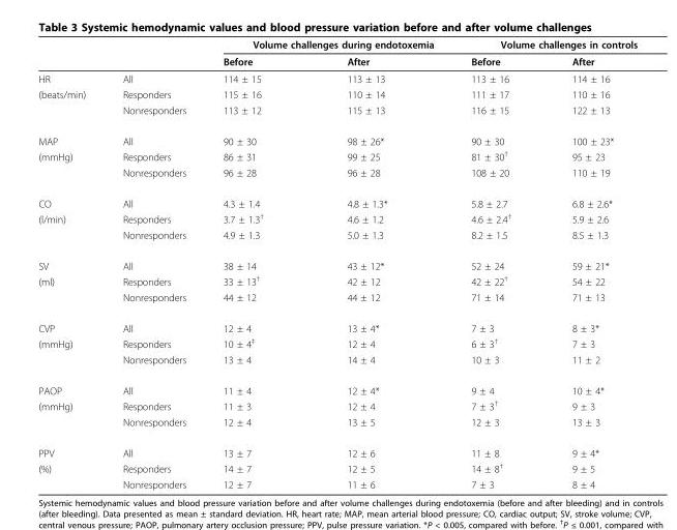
<table><thead><tr><td rowspan="2"></td><td rowspan="2"></td><td colspan="2">Volume challenges during endotoxemia</td><td colspan="2">Volume challenges in controls</td></tr><tr><td>Before</td><td>After</td><td>Before</td><td>After</td></tr></thead><tbody><tr><td>HR</td><td>All</td><td>114 ± 15</td><td>113 ± 13</td><td>113 ± 16</td><td>114 ± 16</td></tr><tr><td rowspan="2">(beats/min)</td><td>Responders</td><td>115 ± 16</td><td>110 ± 14</td><td>111 ± 17</td><td>110 ± 16</td></tr><tr><td>Nonresponders</td><td>113 ± 12</td><td>115 ± 13</td><td>116 ± 15</td><td>122 ± 13</td></tr><tr><td>MAP</td><td>All</td><td>90 ± 30</td><td>98 ± 26*</td><td>90 ± 30</td><td>100 ± 23*</td></tr><tr><td rowspan="2">(mmHg)</td><td>Responders</td><td>86 ± 31</td><td>99 ± 25</td><td>81 ± 30<sup>†</sup></td><td>95 ± 23</td></tr><tr><td>Nonresponders</td><td>96 ± 28</td><td>96 ± 28</td><td>108 ± 20</td><td>110 ± 19</td></tr><tr><td>CO</td><td>All</td><td>4.3 ± 1.4</td><td>4.8 ± 1.3*</td><td>5.8 ± 2.7</td><td>6.8 ± 2.6*</td></tr><tr><td rowspan="2">(l/min)</td><td>Responders</td><td>3.7 ± 1.3<sup>†</sup></td><td>4.6 ± 1.2</td><td>4.6 ± 2.4<sup>†</sup></td><td>5.9 ± 2.6</td></tr><tr><td>Nonresponders</td><td>4.9 ± 1.3</td><td>5.0 ± 1.3</td><td>8.2 ± 1.5</td><td>8.5 ± 1.3</td></tr><tr><td>SV</td><td>All</td><td>38 ± 14</td><td>43 ± 12*</td><td>52 ± 24</td><td>59 ± 21*</td></tr><tr><td rowspan="2">(ml)</td><td>Responders</td><td>33 ± 13<sup>†</sup></td><td>42 ± 12</td><td>42 ± 22<sup>†</sup></td><td>54 ± 22</td></tr><tr><td>Nonresponders</td><td>44 ± 12</td><td>44 ± 12</td><td>71 ± 14</td><td>71 ± 13</td></tr><tr><td>CVP</td><td>All</td><td>12 ± 4</td><td>13 ± 4*</td><td>7 ± 3</td><td>8 ± 3*</td></tr><tr><td rowspan="2">(mmHg)</td><td>Responders</td><td>10 ± 4<sup>‡</sup></td><td>12 ± 4</td><td>6 ± 3<sup>†</sup></td><td>7 ± 3</td></tr><tr><td>Nonresponders</td><td>13 ± 4</td><td>14 ± 4</td><td>10 ± 3</td><td>11 ± 2</td></tr><tr><td>PAOP</td><td>All</td><td>11 ± 4</td><td>12 ± 4*</td><td>9 ± 4</td><td>10 ± 4*</td></tr><tr><td rowspan="2">(mmHg)</td><td>Responders</td><td>11 ± 3</td><td>12 ± 4</td><td>7 ± 3<sup>†</sup></td><td>9 ± 3</td></tr><tr><td>Nonresponders</td><td>12 ± 4</td><td>13 ± 5</td><td>12 ± 3</td><td>13 ± 3</td></tr><tr><td>PPV</td><td>All</td><td>13 ± 7</td><td>12 ± 6</td><td>11 ± 8</td><td>9 ± 4*</td></tr><tr><td rowspan="2">(%)</td><td>Responders</td><td>14 ± 7</td><td>12 ± 5</td><td>14 ± 8<sup>†</sup></td><td>9 ± 5</td></tr><tr><td>Nonresponders</td><td>12 ± 7</td><td>11 ± 6</td><td>7 ± 3</td><td>8 ± 4</td></tr></tbody></table>